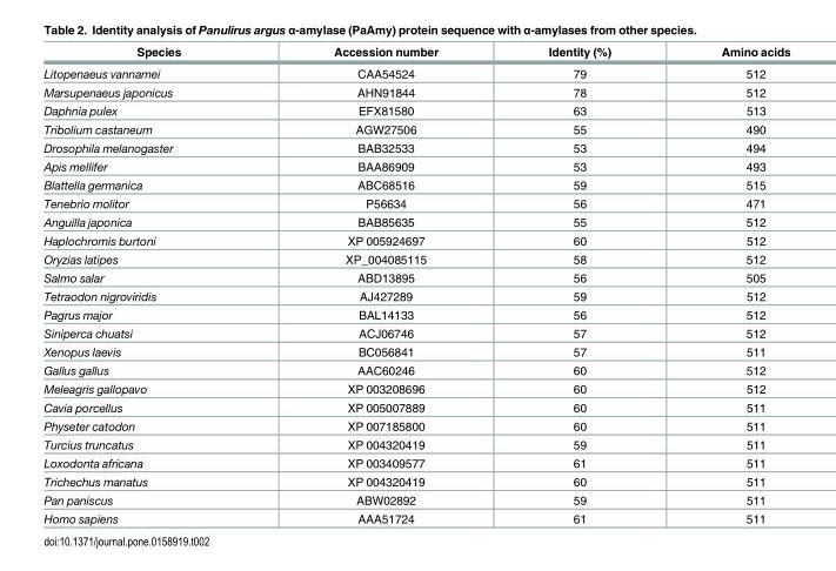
<table><thead><tr><td>Species</td><td>Accession number</td><td>Identity (%)</td><td>Amino acids</td></tr></thead><tbody><tr><td>Litopenaeus vannamei</td><td>CAA54524</td><td>79</td><td>512</td></tr><tr><td>Marsupenaeus japonicus</td><td>AHN91844</td><td>78</td><td>512</td></tr><tr><td>Daphnia pulex</td><td>EFX81580</td><td>63</td><td>513</td></tr><tr><td>Tribolium castaneum</td><td>AGW27506</td><td>55</td><td>490</td></tr><tr><td>Drosophila melanogaster</td><td>BAB32533</td><td>53</td><td>494</td></tr><tr><td>Apis mellifer</td><td>BAA86909</td><td>53</td><td>493</td></tr><tr><td>Blattella germanica</td><td>ABC68516</td><td>59</td><td>515</td></tr><tr><td>Tenebrio molitor</td><td>P56634</td><td>56</td><td>471</td></tr><tr><td>Anguilla japonica</td><td>BAB85635</td><td>55</td><td>512</td></tr><tr><td>Haplochromis burtoni</td><td>XP 005924697</td><td>60</td><td>512</td></tr><tr><td>Oryzias latipes</td><td>XP_004085115</td><td>58</td><td>512</td></tr><tr><td>Salmo salar</td><td>ABD13895</td><td>56</td><td>505</td></tr><tr><td>Tetraodon nigroviridis</td><td>AJ427289</td><td>59</td><td>512</td></tr><tr><td>Pagrus major</td><td>BAL14133</td><td>56</td><td>512</td></tr><tr><td>Siniperca chuatsi</td><td>ACJ06746</td><td>57</td><td>512</td></tr><tr><td>Xenopus laevis</td><td>BC056841</td><td>57</td><td>511</td></tr><tr><td>Gallus gallus</td><td>AAC60246</td><td>60</td><td>512</td></tr><tr><td>Meleagris gallopavo</td><td>XP 003208696</td><td>60</td><td>512</td></tr><tr><td>Cavia porcellus</td><td>XP 005007889</td><td>60</td><td>511</td></tr><tr><td>Physeter catodon</td><td>XP 007185800</td><td>60</td><td>511</td></tr><tr><td>Turcius truncatus</td><td>XP 004320419</td><td>59</td><td>511</td></tr><tr><td>Loxodonta africana</td><td>XP 003409577</td><td>61</td><td>511</td></tr><tr><td>Trichechus manatus</td><td>XP 004320419</td><td>60</td><td>511</td></tr><tr><td>Pan paniscus</td><td>ABW02892</td><td>59</td><td>511</td></tr><tr><td>Homo sapiens</td><td>AAA51724</td><td>61</td><td>511</td></tr></tbody></table>